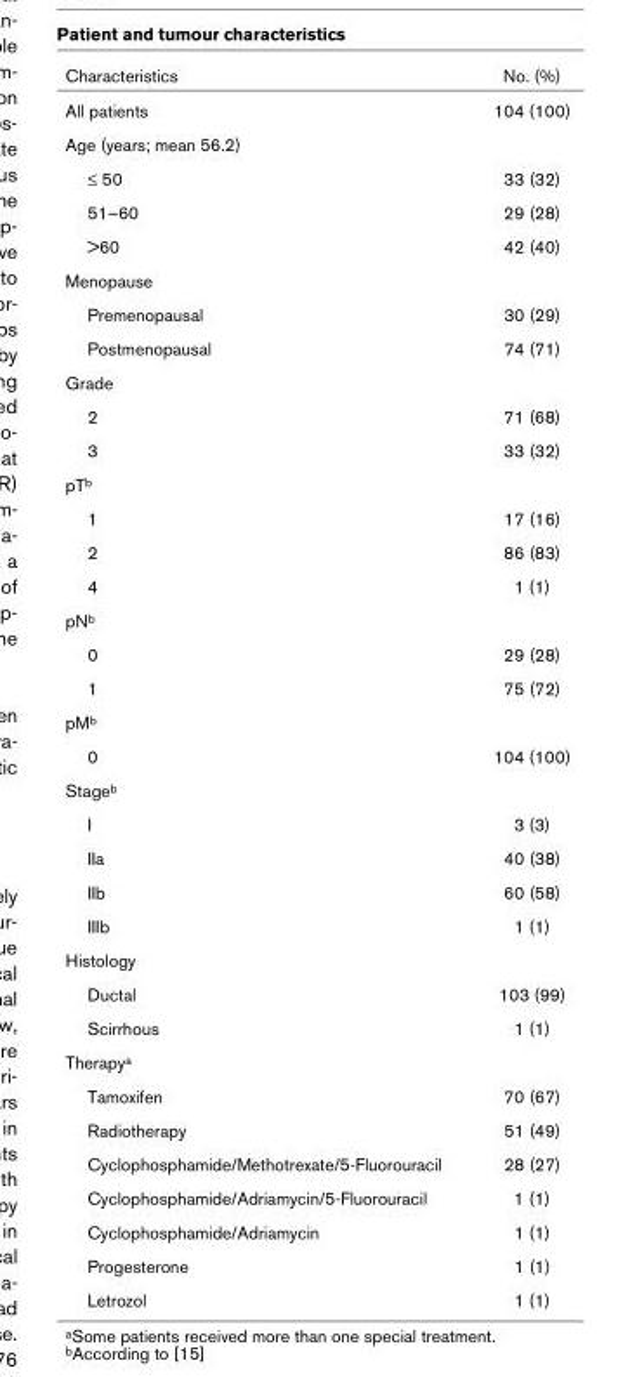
<table><thead><tr><td>Characteristics</td><td>No. (%)</td></tr></thead><tbody><tr><td>All patients</td><td>104 (100)</td></tr><tr><td colspan="2">Age (years; mean 56.2)</td></tr><tr><td>≤ 50</td><td>33 (32)</td></tr><tr><td>51–60</td><td>29 (28)</td></tr><tr><td>&gt;60</td><td>42 (40)</td></tr><tr><td colspan="2">Menopause</td></tr><tr><td>Premenopausal</td><td>30 (29)</td></tr><tr><td>Postmenopausal</td><td>74 (71)</td></tr><tr><td colspan="2">Grade</td></tr><tr><td>2</td><td>71 (68)</td></tr><tr><td>3</td><td>33 (32)</td></tr><tr><td colspan="2">pTb</td></tr><tr><td>1</td><td>17 (16)</td></tr><tr><td>2</td><td>86 (83)</td></tr><tr><td>4</td><td>1 (1)</td></tr><tr><td colspan="2">pNb</td></tr><tr><td>0</td><td>29 (28)</td></tr><tr><td>1</td><td>75 (72)</td></tr><tr><td colspan="2">pMb</td></tr><tr><td>0</td><td>104 (100)</td></tr><tr><td colspan="2">Stageb</td></tr><tr><td>I</td><td>3 (3)</td></tr><tr><td>IIa</td><td>40 (38)</td></tr><tr><td>IIb</td><td>60 (58)</td></tr><tr><td>IIIb</td><td>1 (1)</td></tr><tr><td colspan="2">Histology</td></tr><tr><td>Ductal</td><td>103 (99)</td></tr><tr><td>Scirrhous</td><td>1 (1)</td></tr><tr><td colspan="2">Therapya</td></tr><tr><td>Tamoxifen</td><td>70 (67)</td></tr><tr><td>Radiotherapy</td><td>51 (49)</td></tr><tr><td>Cyclophosphamide/Methotrexate/5-Fluorouracil</td><td>28 (27)</td></tr><tr><td>Cyclophosphamide/Adriamycin/5-Fluorouracil</td><td>1 (1)</td></tr><tr><td>Cyclophosphamide/Adriamycin</td><td>1 (1)</td></tr><tr><td>Progesterone</td><td>1 (1)</td></tr><tr><td>Letrozol</td><td>1 (1)</td></tr></tbody></table>